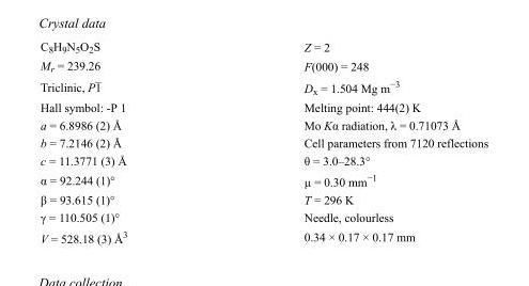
<table><tbody><tr><td>C<sub>8</sub>H<sub>9</sub>N<sub>5</sub>O<sub>2</sub>S</td><td>Z = 2</td></tr><tr><td>M<sub>r</sub> = 239.26</td><td>F(000) = 248</td></tr><tr><td>Triclinic, P1</td><td>D<sub>x</sub> = 1.504 Mg m<sup>−3</sup></td></tr><tr><td>Hall symbol: -P 1</td><td>Melting point: 444(2) K</td></tr><tr><td>a = 6.8986 (2) Å</td><td>Mo Kα radiation, λ = 0.71073 Å</td></tr><tr><td>b = 7.2146 (2) Å</td><td>Cell parameters from 7120 reflections</td></tr><tr><td>c = 11.3771 (3) Å</td><td>θ = 3.0–28.3°</td></tr><tr><td>α = 92.244 (1)°</td><td>µ = 0.30 mm<sup>−1</sup></td></tr><tr><td>β = 93.615 (1)°</td><td>T = 296 K</td></tr><tr><td>γ = 110.505 (1)°</td><td>Needle, colourless</td></tr><tr><td>V = 528.18 (3) Å<sup>3</sup></td><td>0.34 × 0.17 × 0.17 mm</td></tr></tbody></table>